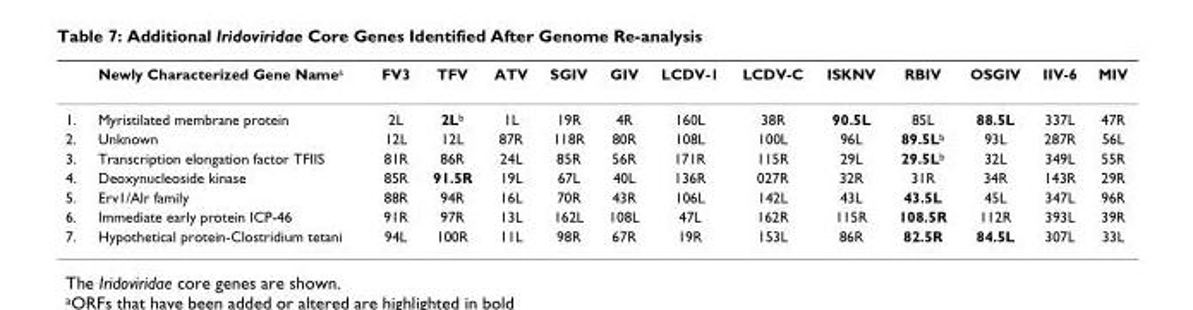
<table><thead><tr><td></td><td>Newly Characterized Gene Name<sup>a</sup></td><td>FV3</td><td>TFV</td><td>ATV</td><td>SGIV</td><td>GIV</td><td>LCDV-1</td><td>LCDV-C</td><td>ISKNV</td><td>RBIV</td><td>OSGIV</td><td>IIV-6</td><td>MIV</td></tr></thead><tbody><tr><td>1.</td><td>Myristilated membrane protein</td><td>2L</td><td>2L<sup>b</sup></td><td>1L</td><td>19R</td><td>4R</td><td>160L</td><td>38R</td><td>90.5L</td><td>85L</td><td>88.5L</td><td>337L</td><td>47R</td></tr><tr><td>2.</td><td>Unknown</td><td>12L</td><td>12L</td><td>87R</td><td>118R</td><td>80R</td><td>108L</td><td>100L</td><td>96L</td><td>89.5L<sup>b</sup></td><td>93L</td><td>287R</td><td>56L</td></tr><tr><td>3.</td><td>Transcription elongation factor TFIIS</td><td>81R</td><td>86R</td><td>24L</td><td>85R</td><td>56R</td><td>171R</td><td>115R</td><td>29L</td><td>29.5L<sup>b</sup></td><td>32L</td><td>349L</td><td>55R</td></tr><tr><td>4.</td><td>Deoxynucleoside kinase</td><td>85R</td><td>91.5R</td><td>19L</td><td>67L</td><td>40L</td><td>136R</td><td>027R</td><td>32R</td><td>31R</td><td>34R</td><td>143R</td><td>29R</td></tr><tr><td>5.</td><td>Erv1/Alr family</td><td>88R</td><td>94R</td><td>16L</td><td>70R</td><td>43R</td><td>106L</td><td>142L</td><td>43L</td><td>43.5L</td><td>45L</td><td>347L</td><td>96R</td></tr><tr><td>6.</td><td>Immediate early protein ICP-46</td><td>91R</td><td>97R</td><td>13L</td><td>162L</td><td>108L</td><td>47L</td><td>162R</td><td>115R</td><td>108.5R</td><td>112R</td><td>393L</td><td>39R</td></tr><tr><td>7.</td><td>Hypothetical protein-Clostridium tetani</td><td>94L</td><td>100R</td><td>11L</td><td>98R</td><td>67R</td><td>19R</td><td>153L</td><td>86R</td><td>82.5R</td><td>84.5L</td><td>307L</td><td>33L</td></tr></tbody></table>